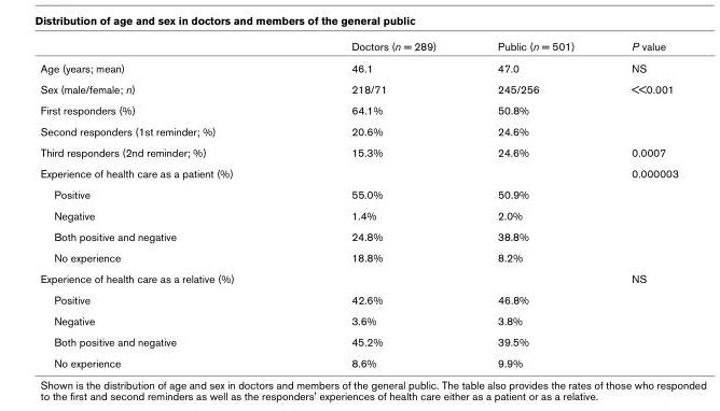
<table><thead><tr><td></td><td>Doctors (n = 289)</td><td>Public (n = 501)</td><td>P value</td></tr></thead><tbody><tr><td>Age (years; mean)</td><td>46.1</td><td>47.0</td><td>NS</td></tr><tr><td>Sex (male/female; n)</td><td>218/71</td><td>245/256</td><td>&lt;&lt;0.001</td></tr><tr><td>First responders (%)</td><td>64.1%</td><td>50.8%</td><td></td></tr><tr><td>Second responders (1st reminder; %)</td><td>20.6%</td><td>24.6%</td><td></td></tr><tr><td>Third responders (2nd reminder; %)</td><td>15.3%</td><td>24.6%</td><td>0.0007</td></tr><tr><td>Experience of health care as a patient (%)</td><td></td><td></td><td>0.000003</td></tr><tr><td>Positive</td><td>55.0%</td><td>50.9%</td><td></td></tr><tr><td>Negative</td><td>1.4%</td><td>2.0%</td><td></td></tr><tr><td>Both positive and negative</td><td>24.8%</td><td>38.8%</td><td></td></tr><tr><td>No experience</td><td>18.8%</td><td>8.2%</td><td></td></tr><tr><td>Experience of health care as a relative (%)</td><td></td><td></td><td>NS</td></tr><tr><td>Positive</td><td>42.6%</td><td>46.8%</td><td></td></tr><tr><td>Negative</td><td>3.6%</td><td>3.8%</td><td></td></tr><tr><td>Both positive and negative</td><td>45.2%</td><td>39.5%</td><td></td></tr><tr><td>No experience</td><td>8.6%</td><td>9.9%</td><td></td></tr></tbody></table>